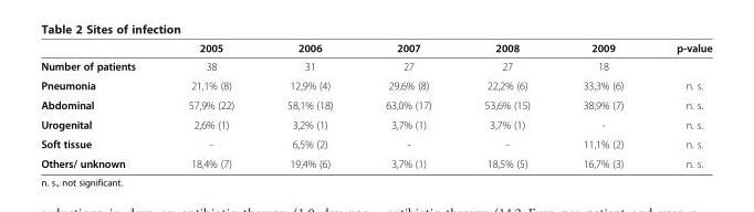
<table><thead><tr><td></td><td>2005</td><td>2006</td><td>2007</td><td>2008</td><td>2009</td><td>p-value</td></tr></thead><tbody><tr><td>Number of patients</td><td>38</td><td>31</td><td>27</td><td>27</td><td>18</td><td></td></tr><tr><td>Pneumonia</td><td>21,1% (8)</td><td>12,9% (4)</td><td>29,6% (8)</td><td>22,2% (6)</td><td>33,3% (6)</td><td>n. s.</td></tr><tr><td>Abdominal</td><td>57,9% (22)</td><td>58,1% (18)</td><td>63,0% (17)</td><td>53,6% (15)</td><td>38,9% (7)</td><td>n. s.</td></tr><tr><td>Urogenital</td><td>2,6% (1)</td><td>3,2% (1)</td><td>3,7% (1)</td><td>3,7% (1)</td><td>-</td><td>n. s.</td></tr><tr><td>Soft tissue</td><td>-</td><td>6,5% (2)</td><td>-</td><td>-</td><td>11,1% (2)</td><td>n. s.</td></tr><tr><td>Others/ unknown</td><td>18,4% (7)</td><td>19,4% (6)</td><td>3,7% (1)</td><td>18,5% (5)</td><td>16,7% (3)</td><td>n. s.</td></tr></tbody></table>